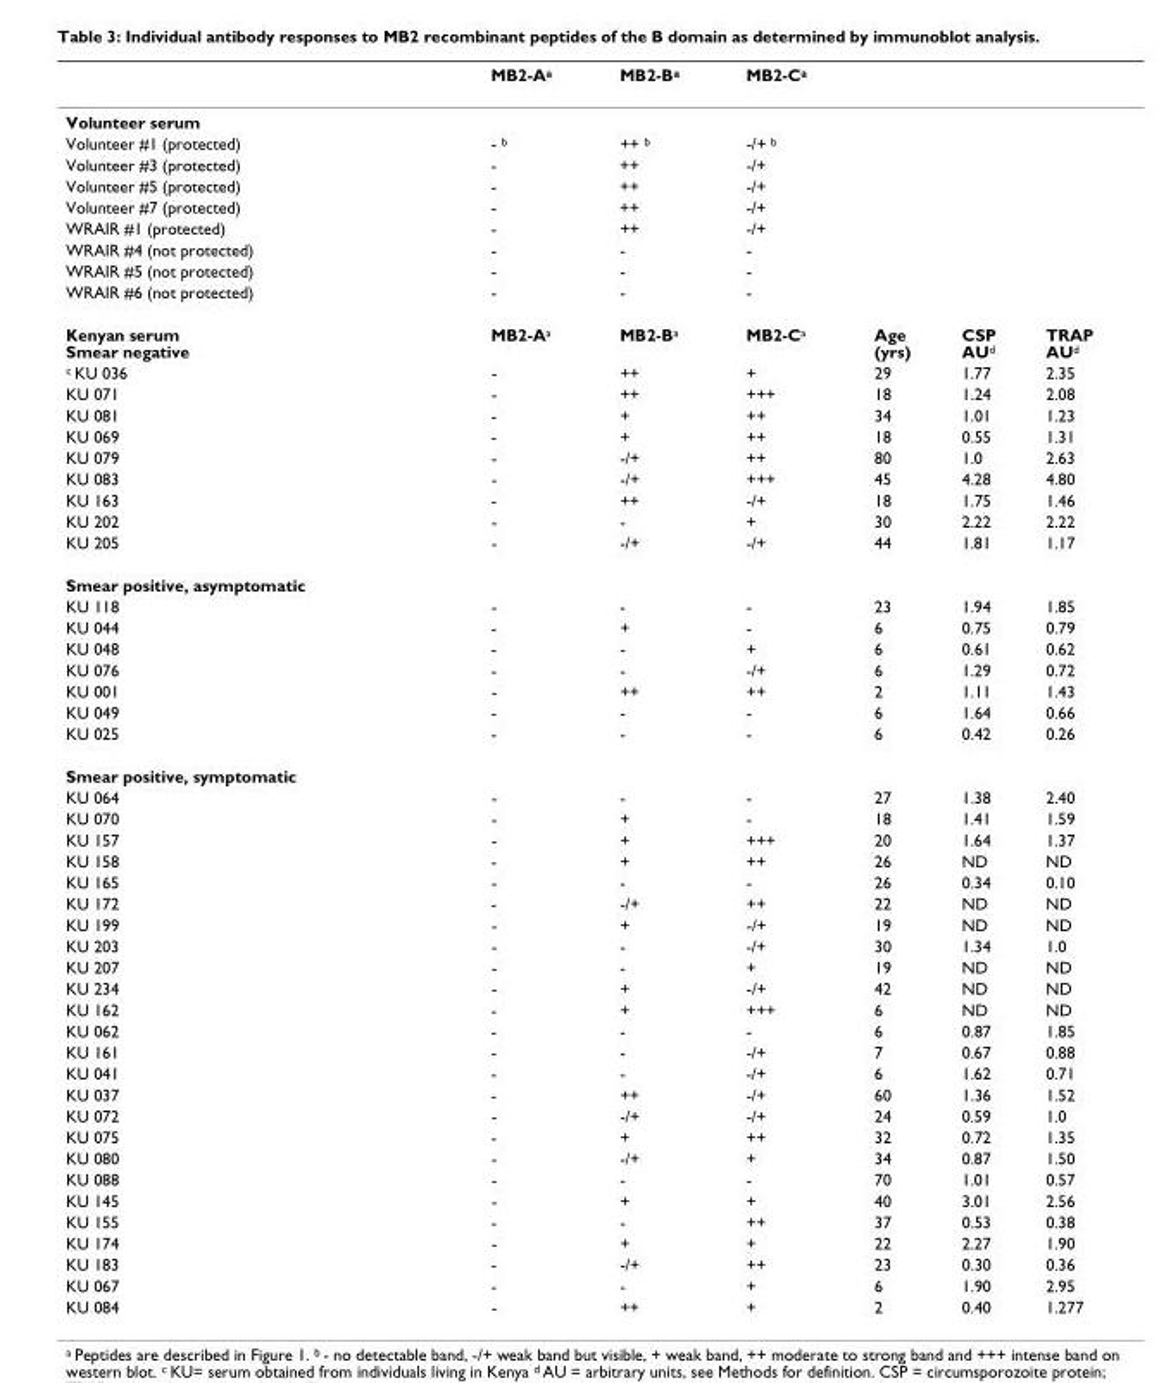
<table><thead><tr><td></td><td>MB2-A<sup>a</sup></td><td>MB2-B<sup>a</sup></td><td>MB2-C<sup>a</sup></td><td></td><td></td><td></td></tr></thead><tbody><tr><td colspan="7">Volunteer serum</td></tr><tr><td>Volunteer #1 (protected)</td><td>- <sup>b</sup></td><td>++ <sup>b</sup></td><td>-/+ <sup>b</sup></td><td></td><td></td><td></td></tr><tr><td>Volunteer #3 (protected)</td><td>-</td><td>++</td><td>-/+</td><td></td><td></td><td></td></tr><tr><td>Volunteer #5 (protected)</td><td>-</td><td>++</td><td>-/+</td><td></td><td></td><td></td></tr><tr><td>Volunteer #7 (protected)</td><td>-</td><td>++</td><td>-/+</td><td></td><td></td><td></td></tr><tr><td>WRAIR #1 (protected)</td><td>-</td><td>++</td><td>-/+</td><td></td><td></td><td></td></tr><tr><td>WRAIR #4 (not protected)</td><td>-</td><td>-</td><td>-</td><td></td><td></td><td></td></tr><tr><td>WRAIR #5 (not protected)</td><td>-</td><td>-</td><td>-</td><td></td><td></td><td></td></tr><tr><td>WRAIR #6 (not protected)</td><td>-</td><td>-</td><td>-</td><td></td><td></td><td></td></tr><tr><td>Kenyan serum Smear negative</td><td>MB2-A<sup>a</sup></td><td>MB2-B<sup>a</sup></td><td>MB2-C<sup>a</sup></td><td>Age (yrs)</td><td>CSP AU<sup>d</sup></td><td>TRAP AU<sup>d</sup></td></tr><tr><td><sup>c</sup> KU 036</td><td>-</td><td>++</td><td>+</td><td>29</td><td>1.77</td><td>2.35</td></tr><tr><td>KU 071</td><td>-</td><td>++</td><td>+++</td><td>18</td><td>1.24</td><td>2.08</td></tr><tr><td>KU 081</td><td>-</td><td>+</td><td>++</td><td>34</td><td>1.01</td><td>1.23</td></tr><tr><td>KU 069</td><td>-</td><td>+</td><td>++</td><td>18</td><td>0.55</td><td>1.31</td></tr><tr><td>KU 079</td><td>-</td><td>-/+</td><td>++</td><td>80</td><td>1.0</td><td>2.63</td></tr><tr><td>KU 083</td><td>-</td><td>-/+</td><td>+++</td><td>45</td><td>4.28</td><td>4.80</td></tr><tr><td>KU 163</td><td>-</td><td>++</td><td>-/+</td><td>18</td><td>1.75</td><td>1.46</td></tr><tr><td>KU 202</td><td>-</td><td>-</td><td>+</td><td>30</td><td>2.22</td><td>2.22</td></tr><tr><td>KU 205</td><td>-</td><td>-/+</td><td>-/+</td><td>44</td><td>1.81</td><td>1.17</td></tr><tr><td colspan="7">Smear positive, asymptomatic</td></tr><tr><td>KU 118</td><td>-</td><td>-</td><td>-</td><td>23</td><td>1.94</td><td>1.85</td></tr><tr><td>KU 044</td><td>-</td><td>+</td><td>-</td><td>6</td><td>0.75</td><td>0.79</td></tr><tr><td>KU 048</td><td>-</td><td>-</td><td>+</td><td>6</td><td>0.61</td><td>0.62</td></tr><tr><td>KU 076</td><td>-</td><td>-</td><td>-/+</td><td>6</td><td>1.29</td><td>0.72</td></tr><tr><td>KU 001</td><td>-</td><td>++</td><td>++</td><td>2</td><td>1.11</td><td>1.43</td></tr><tr><td>KU 049</td><td>-</td><td>-</td><td>-</td><td>6</td><td>1.64</td><td>0.66</td></tr><tr><td>KU 025</td><td>-</td><td>-</td><td>-</td><td>6</td><td>0.42</td><td>0.26</td></tr><tr><td colspan="7">Smear positive, symptomatic</td></tr><tr><td>KU 064</td><td>-</td><td>-</td><td>-</td><td>27</td><td>1.38</td><td>2.40</td></tr><tr><td>KU 070</td><td>-</td><td>+</td><td>-</td><td>18</td><td>1.41</td><td>1.59</td></tr><tr><td>KU 157</td><td>-</td><td>+</td><td>+++</td><td>20</td><td>1.64</td><td>1.37</td></tr><tr><td>KU 158</td><td>-</td><td>+</td><td>++</td><td>26</td><td>ND</td><td>ND</td></tr><tr><td>KU 165</td><td>-</td><td>-</td><td>-</td><td>26</td><td>0.34</td><td>0.10</td></tr><tr><td>KU 172</td><td>-</td><td>-/+</td><td>++</td><td>22</td><td>ND</td><td>ND</td></tr><tr><td>KU 199</td><td>-</td><td>+</td><td>-/+</td><td>19</td><td>ND</td><td>ND</td></tr><tr><td>KU 203</td><td>-</td><td>-</td><td>-/+</td><td>30</td><td>1.34</td><td>1.0</td></tr><tr><td>KU 207</td><td>-</td><td>-</td><td>+</td><td>19</td><td>ND</td><td>ND</td></tr><tr><td>KU 234</td><td>-</td><td>+</td><td>-/+</td><td>42</td><td>ND</td><td>ND</td></tr><tr><td>KU 162</td><td>-</td><td>+</td><td>+++</td><td>6</td><td>ND</td><td>ND</td></tr><tr><td>KU 062</td><td>-</td><td>-</td><td>-</td><td>6</td><td>0.87</td><td>1.85</td></tr><tr><td>KU 161</td><td>-</td><td>-</td><td>-/+</td><td>7</td><td>0.67</td><td>0.88</td></tr><tr><td>KU 041</td><td>-</td><td>-</td><td>-/+</td><td>6</td><td>1.62</td><td>0.71</td></tr><tr><td>KU 037</td><td>-</td><td>++</td><td>-/+</td><td>60</td><td>1.36</td><td>1.52</td></tr><tr><td>KU 072</td><td>-</td><td>-/+</td><td>-/+</td><td>24</td><td>0.59</td><td>1.0</td></tr><tr><td>KU 075</td><td>-</td><td>+</td><td>++</td><td>32</td><td>0.72</td><td>1.35</td></tr><tr><td>KU 080</td><td>-</td><td>-/+</td><td>+</td><td>34</td><td>0.87</td><td>1.50</td></tr><tr><td>KU 088</td><td>-</td><td>-</td><td>-</td><td>70</td><td>1.01</td><td>0.57</td></tr><tr><td>KU 145</td><td>-</td><td>+</td><td>+</td><td>40</td><td>3.01</td><td>2.56</td></tr><tr><td>KU 155</td><td>-</td><td>-</td><td>++</td><td>37</td><td>0.53</td><td>0.38</td></tr><tr><td>KU 174</td><td>-</td><td>+</td><td>+</td><td>22</td><td>2.27</td><td>1.90</td></tr><tr><td>KU 183</td><td>-</td><td>-/+</td><td>++</td><td>23</td><td>0.30</td><td>0.36</td></tr><tr><td>KU 067</td><td>-</td><td>-</td><td>+</td><td>6</td><td>1.90</td><td>2.95</td></tr><tr><td>KU 084</td><td>-</td><td>++</td><td>+</td><td>2</td><td>0.40</td><td>1.277</td></tr></tbody></table>